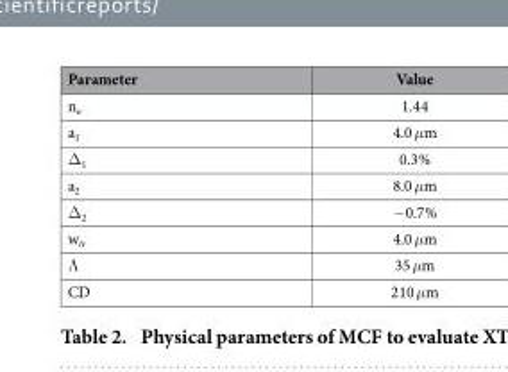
<table><thead><tr><td>Parameter</td><td>Value</td></tr></thead><tbody><tr><td>n<sub>o</sub></td><td>1.44</td></tr><tr><td>a<sub>1</sub></td><td>4.0 μm</td></tr><tr><td>Δ <sub>1</sub></td><td>0.3%</td></tr><tr><td>a<sub>2</sub></td><td>8.0 μm</td></tr><tr><td>Δ <sub>2</sub></td><td>− 0.7%</td></tr><tr><td>w<sub>tr</sub></td><td>4.0 μm</td></tr><tr><td>Λ</td><td>35 μm</td></tr><tr><td>CD</td><td>210 μm</td></tr></tbody></table>